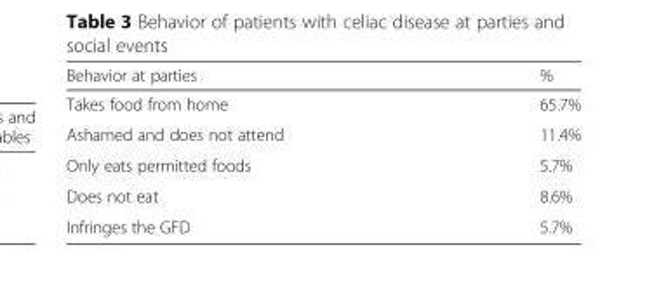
<table><thead><tr><td>Behavior at parties</td><td>%</td></tr></thead><tbody><tr><td>Takes food from home</td><td>65.7%</td></tr><tr><td>Ashamed and does not attend</td><td>11.4%</td></tr><tr><td>Only eats permitted foods</td><td>5.7%</td></tr><tr><td>Does not eat</td><td>8.6%</td></tr><tr><td>Infringes the GFD</td><td>5.7%</td></tr></tbody></table>